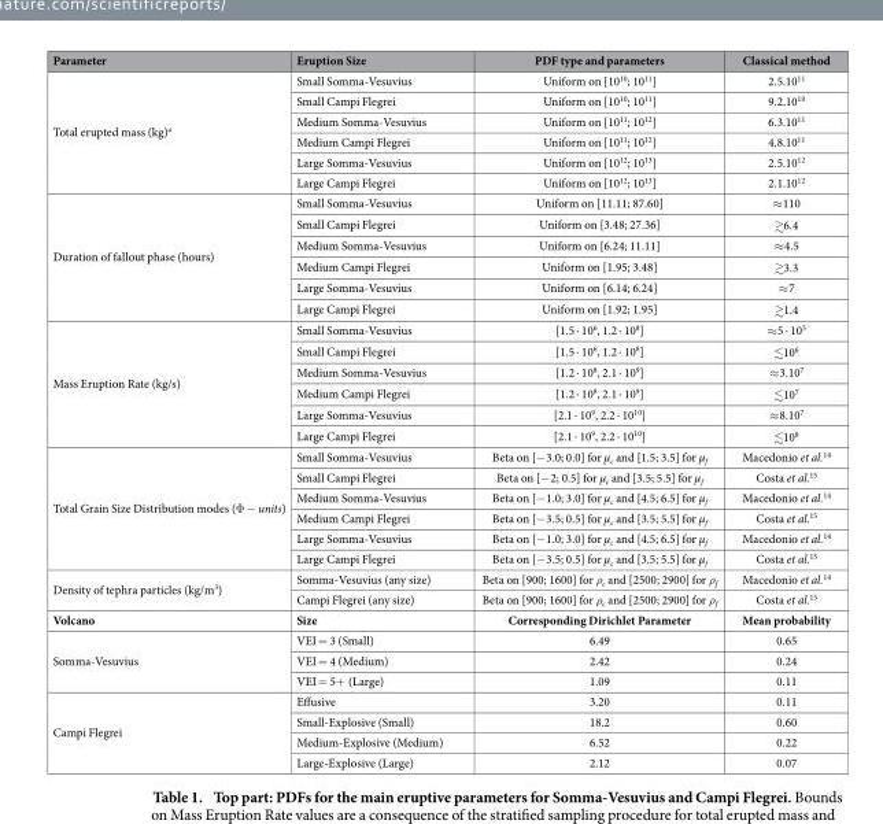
<table><thead><tr><td>Parameter</td><td>Eruption Size</td><td>PDF type and parameters</td><td>Classical method</td></tr></thead><tbody><tr><td rowspan="6">Total erupted mass (kg)<sup>a</sup></td><td>Small Somma-Vesuvius</td><td>Uniform on [10<sup>10</sup>; 10<sup>11</sup>]</td><td>2.5.10<sup>11</sup></td></tr><tr><td>Small Campi Flegrei</td><td>Uniform on [10<sup>10</sup>; 10<sup>11</sup>]</td><td>9.2.10<sup>10</sup></td></tr><tr><td>Medium Somma-Vesuvius</td><td>Uniform on [10<sup>11</sup>; 10<sup>12</sup>]</td><td>6.3.10<sup>11</sup></td></tr><tr><td>Medium Campi Flegrei</td><td>Uniform on [10<sup>11</sup>; 10<sup>12</sup>]</td><td>4.8.10<sup>11</sup></td></tr><tr><td>Large Somma-Vesuvius</td><td>Uniform on [10<sup>12</sup>; 10<sup>13</sup>]</td><td>2.5.10<sup>12</sup></td></tr><tr><td>Large Campi Flegrei</td><td>Uniform on [10<sup>12</sup>; 10<sup>13</sup>]</td><td>2.1.10<sup>12</sup></td></tr><tr><td rowspan="6">Duration of fallout phase (hours)</td><td>Small Somma-Vesuvius</td><td>Uniform on [11.11; 87.60]</td><td>≈ 110</td></tr><tr><td>Small Campi Flegrei</td><td>Uniform on [3.48; 27.36]</td><td>6.4</td></tr><tr><td>Medium Somma-Vesuvius</td><td>Uniform on [6.24; 11.11]</td><td>≈ 4.5</td></tr><tr><td>Medium Campi Flegrei</td><td>Uniform on [1.95; 3.48]</td><td>3.3</td></tr><tr><td>Large Somma-Vesuvius</td><td>Uniform on [6.14; 6.24]</td><td>≈ 7</td></tr><tr><td>Large Campi Flegrei</td><td>Uniform on [1.92; 1.95]</td><td>1.4</td></tr><tr><td rowspan="6">Mass Eruption Rate (kg/s)</td><td>Small Somma-Vesuvius</td><td>[1.5 ⋅ 10<sup>6</sup>, 1.2 ⋅ 10<sup>8</sup>]</td><td>≈ 5 ⋅ 10<sup>5</sup></td></tr><tr><td>Small Campi Flegrei</td><td>[1.5 ⋅ 10<sup>6</sup>, 1.2 ⋅ 10<sup>8</sup>]</td><td>106</td></tr><tr><td>Medium Somma-Vesuvius</td><td>[1.2 ⋅ 10<sup>8</sup>, 2.1 ⋅ 10<sup>9</sup>]</td><td>≈ 3.10<sup>7</sup></td></tr><tr><td>Medium Campi Flegrei</td><td>[1.2 ⋅ 10<sup>8</sup>, 2.1 ⋅ 10<sup>9</sup>]</td><td>107</td></tr><tr><td>Large Somma-Vesuvius</td><td>[2.1 ⋅ 10<sup>9</sup>, 2.2 ⋅ 10<sup>10</sup>]</td><td>≈ 8.10<sup>7</sup></td></tr><tr><td>Large Campi Flegrei</td><td>[2.1 ⋅ 10<sup>9</sup>, 2.2 ⋅ 10<sup>10</sup>]</td><td>108</td></tr><tr><td rowspan="6">Total Grain Size Distribution modes (Φ − units)</td><td>Small Somma-Vesuvius</td><td>Beta on [− 3.0; 0.0] for μ<sub>c</sub> and [1.5; 3.5] for μ<sub>f</sub></td><td>Macedonio et al.<sup>14</sup></td></tr><tr><td>Small Campi Flegrei</td><td>Beta on [− 2; 0.5] for μ<sub>c</sub> and [3.5; 5.5] for μ<sub>f</sub></td><td>Costa et al.<sup>15</sup></td></tr><tr><td>Medium Somma-Vesuvius</td><td>Beta on [− 1.0; 3.0] for μ<sub>c</sub> and [4.5; 6.5] for μ<sub>f</sub></td><td>Macedonio et al.<sup>14</sup></td></tr><tr><td>Medium Campi Flegrei</td><td>Beta on [− 3.5; 0.5] for μ<sub>c</sub> and [3.5; 5.5] for μ<sub>f</sub></td><td>Costa et al.<sup>15</sup></td></tr><tr><td>Large Somma-Vesuvius</td><td>Beta on [− 1.0; 3.0] for μ<sub>c</sub> and [4.5; 6.5] for μ<sub>f</sub></td><td>Macedonio et al.<sup>14</sup></td></tr><tr><td>Large Campi Flegrei</td><td>Beta on [− 3.5; 0.5] for μ<sub>c</sub> and [3.5; 5.5] for μ<sub>f</sub></td><td>Costa et al.<sup>15</sup></td></tr><tr><td rowspan="2">Density of tephra particles (kg/m<sup>3</sup>)</td><td>Somma-Vesuvius (any size)</td><td>Beta on [900; 1600] for ρ<sub>c</sub> and [2500; 2900] for ρ<sub>f</sub></td><td>Macedonio et al.<sup>14</sup></td></tr><tr><td>Campi Flegrei (any size)</td><td>Beta on [900; 1600] for ρ<sub>c</sub> and [2500; 2900] for ρ<sub>f</sub></td><td>Costa et al.<sup>15</sup></td></tr><tr><td>Volcano</td><td>Size</td><td>Corresponding Dirichlet Parameter</td><td>Mean probability</td></tr><tr><td rowspan="3">Somma-Vesuvius</td><td>VEI = 3 (Small)</td><td>6.49</td><td>0.65</td></tr><tr><td>VEI = 4 (Medium)</td><td>2.42</td><td>0.24</td></tr><tr><td>VEI = 5+ (Large)</td><td>1.09</td><td>0.11</td></tr><tr><td rowspan="4">Campi Flegrei</td><td>Effusive</td><td>3.20</td><td>0.11</td></tr><tr><td>Small-Explosive (Small)</td><td>18.2</td><td>0.60</td></tr><tr><td>Medium-Explosive (Medium)</td><td>6.52</td><td>0.22</td></tr><tr><td>Large-Explosive (Large)</td><td>2.12</td><td>0.07</td></tr></tbody></table>